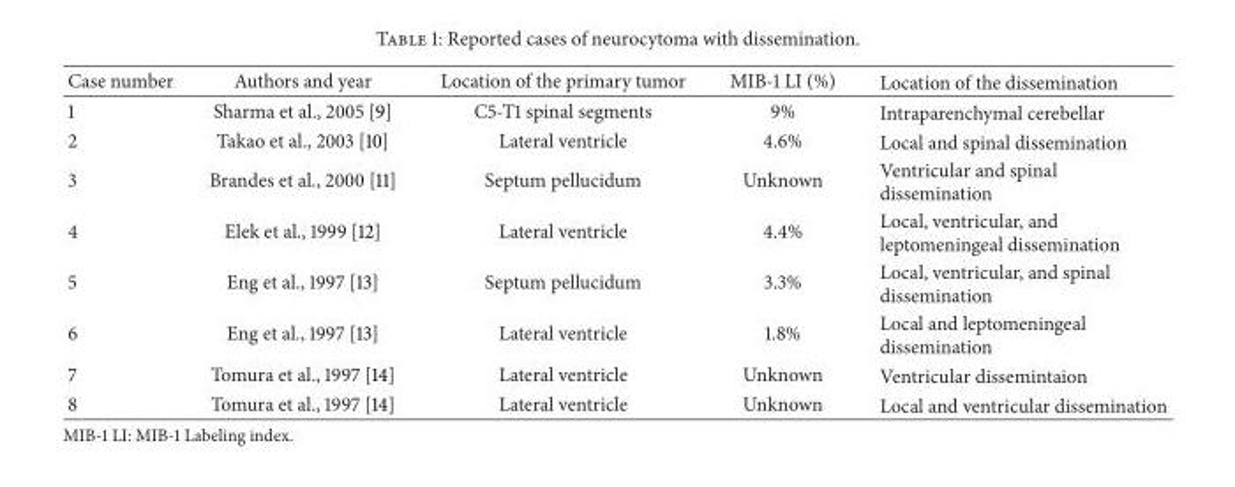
<table><thead><tr><td>Case number</td><td>Authors and year</td><td>Location of the primary tumor</td><td>MIB-1 LI (%)</td><td>Location of the dissemination</td></tr></thead><tbody><tr><td>1</td><td>Sharma et al., 2005 [9]</td><td>C5-T1 spinal segments</td><td>9%</td><td>Intraparenchymal cerebellar</td></tr><tr><td>2</td><td>Takao et al., 2003 [10]</td><td>Lateral ventricle</td><td>4.6%</td><td>Local and spinal dissemination</td></tr><tr><td>3</td><td>Brandes et al., 2000 [11]</td><td>Septum pellucidum</td><td>Unknown</td><td>Ventricular and spinal dissemination</td></tr><tr><td>4</td><td>Elek et al., 1999 [12]</td><td>Lateral ventricle</td><td>4.4%</td><td>Local, ventricular, and leptomeningeal dissemination</td></tr><tr><td>5</td><td>Eng et al., 1997 [13]</td><td>Septum pellucidum</td><td>3.3%</td><td>Local, ventricular, and spinal dissemination</td></tr><tr><td>6</td><td>Eng et al., 1997 [13]</td><td>Lateral ventricle</td><td>1.8%</td><td>Local and leptomeningeal dissemination</td></tr><tr><td>7</td><td>Tomura et al., 1997 [14]</td><td>Lateral ventricle</td><td>Unknown</td><td>Ventricular dissemintaion</td></tr><tr><td>8</td><td>Tomura et al., 1997 [14]</td><td>Lateral ventricle</td><td>Unknown</td><td>Local and ventricular dissemination</td></tr></tbody></table>